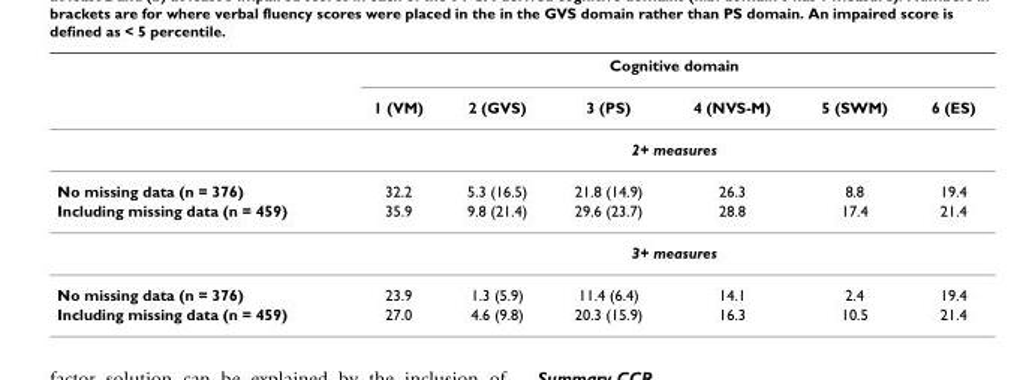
<table><thead><tr><td rowspan="2"></td><td colspan="6">Cognitive domain</td></tr><tr><td>1 (VM)</td><td>2 (GVS)</td><td>3 (PS)</td><td>4 (NVS-M)</td><td>5 (SWM)</td><td>6 (ES)</td></tr></thead><tbody><tr><td></td><td colspan="6">2+ measures</td></tr><tr><td>No missing data (n = 376)</td><td>32.2</td><td>5.3 (16.5)</td><td>21.8 (14.9)</td><td>26.3</td><td>8.8</td><td>19.4</td></tr><tr><td rowspan="2">Including missing data (n = 459)</td><td>35.9</td><td>9.8 (21.4)</td><td>29.6 (23.7)</td><td>28.8</td><td>17.4</td><td>21.4</td></tr><tr><td colspan="6">3+ measures</td></tr><tr><td>No missing data (n = 376)</td><td>23.9</td><td>1.3 (5.9)</td><td>11.4 (6.4)</td><td>14.1</td><td>2.4</td><td>19.4</td></tr><tr><td>Including missing data (n = 459)</td><td>27.0</td><td>4.6 (9.8)</td><td>20.3 (15.9)</td><td>16.3</td><td>10.5</td><td>21.4</td></tr></tbody></table>